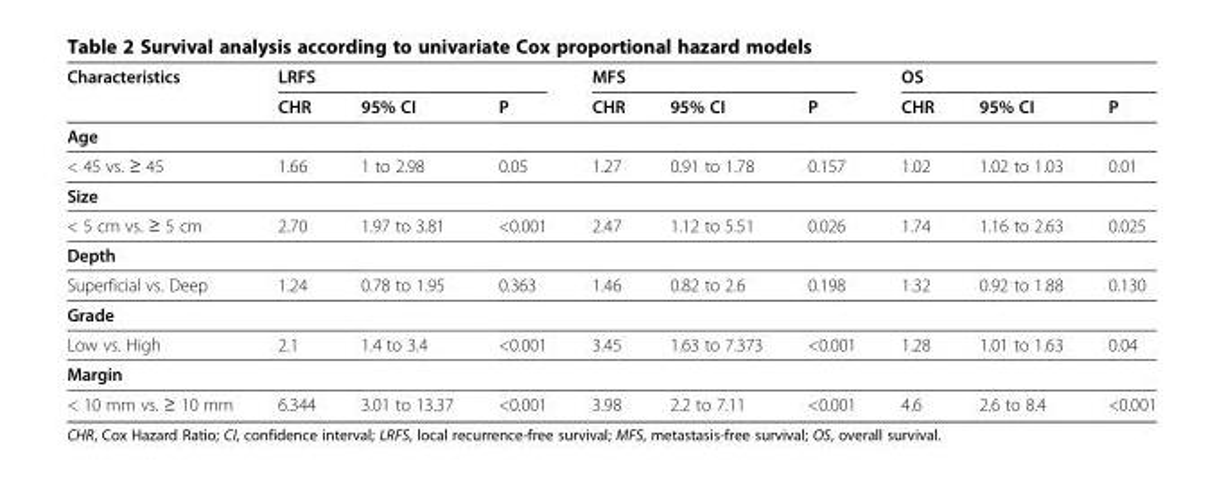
<table><thead><tr><td rowspan="2">Characteristics</td><td colspan="3">LRFS</td><td colspan="3">MFS</td><td colspan="3">OS</td></tr><tr><td>CHR</td><td>95% CI</td><td>P</td><td>CHR</td><td>95% CI</td><td>P</td><td>CHR</td><td>95% CI</td><td>P</td></tr></thead><tbody><tr><td colspan="10">Age</td></tr><tr><td>&lt; 45 vs. ≥ 45</td><td>1.66</td><td>1 to 2.98</td><td>0.05</td><td>1.27</td><td>0.91 to 1.78</td><td>0.157</td><td>1.02</td><td>1.02 to 1.03</td><td>0.01</td></tr><tr><td colspan="10">Size</td></tr><tr><td>&lt; 5 cm vs. ≥ 5 cm</td><td>2.70</td><td>1.97 to 3.81</td><td>&lt;0.001</td><td>2.47</td><td>1.12 to 5.51</td><td>0.026</td><td>1.74</td><td>1.16 to 2.63</td><td>0.025</td></tr><tr><td colspan="10">Depth</td></tr><tr><td>Superficial vs. Deep</td><td>1.24</td><td>0.78 to 1.95</td><td>0.363</td><td>1.46</td><td>0.82 to 2.6</td><td>0.198</td><td>1.32</td><td>0.92 to 1.88</td><td>0.130</td></tr><tr><td colspan="10">Grade</td></tr><tr><td>Low vs. High</td><td>2.1</td><td>1.4 to 3.4</td><td>&lt;0.001</td><td>3.45</td><td>1.63 to 7.373</td><td>&lt;0.001</td><td>1.28</td><td>1.01 to 1.63</td><td>0.04</td></tr><tr><td colspan="10">Margin</td></tr><tr><td>&lt; 10 mm vs. ≥ 10 mm</td><td>6.344</td><td>3.01 to 13.37</td><td>&lt;0.001</td><td>3.98</td><td>2.2 to 7.11</td><td>&lt;0.001</td><td>4.6</td><td>2.6 to 8.4</td><td>&lt;0.001</td></tr></tbody></table>